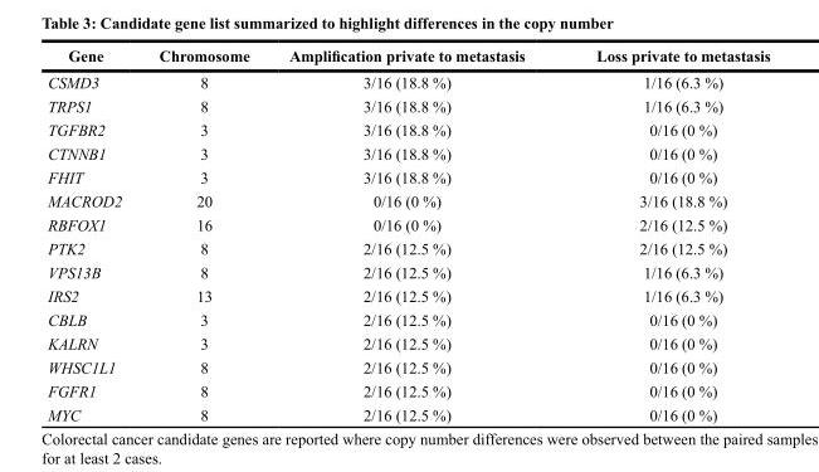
<table><thead><tr><td>Gene</td><td>Chromosome</td><td>Amplification private to metastasis</td><td>Loss private to metastasis</td></tr></thead><tbody><tr><td>CSMD3</td><td>8</td><td>3/16 (18.8 %)</td><td>1/16 (6.3 %)</td></tr><tr><td>TRPS1</td><td>8</td><td>3/16 (18.8 %)</td><td>1/16 (6.3 %)</td></tr><tr><td>TGFBR2</td><td>3</td><td>3/16 (18.8 %)</td><td>0/16 (0 %)</td></tr><tr><td>CTNNB1</td><td>3</td><td>3/16 (18.8 %)</td><td>0/16 (0 %)</td></tr><tr><td>FHIT</td><td>3</td><td>3/16 (18.8 %)</td><td>0/16 (0 %)</td></tr><tr><td>MACROD2</td><td>20</td><td>0/16 (0 %)</td><td>3/16 (18.8 %)</td></tr><tr><td>RBFOX1</td><td>16</td><td>0/16 (0 %)</td><td>2/16 (12.5 %)</td></tr><tr><td>PTK2</td><td>8</td><td>2/16 (12.5 %)</td><td>2/16 (12.5 %)</td></tr><tr><td>VPS13B</td><td>8</td><td>2/16 (12.5 %)</td><td>1/16 (6.3 %)</td></tr><tr><td>IRS2</td><td>13</td><td>2/16 (12.5 %)</td><td>1/16 (6.3 %)</td></tr><tr><td>CBLB</td><td>3</td><td>2/16 (12.5 %)</td><td>0/16 (0 %)</td></tr><tr><td>KALRN</td><td>3</td><td>2/16 (12.5 %)</td><td>0/16 (0 %)</td></tr><tr><td>WHSC1L1</td><td>8</td><td>2/16 (12.5 %)</td><td>0/16 (0 %)</td></tr><tr><td>FGFR1</td><td>8</td><td>2/16 (12.5 %)</td><td>0/16 (0 %)</td></tr><tr><td>MYC</td><td>8</td><td>2/16 (12.5 %)</td><td>0/16 (0 %)</td></tr></tbody></table>